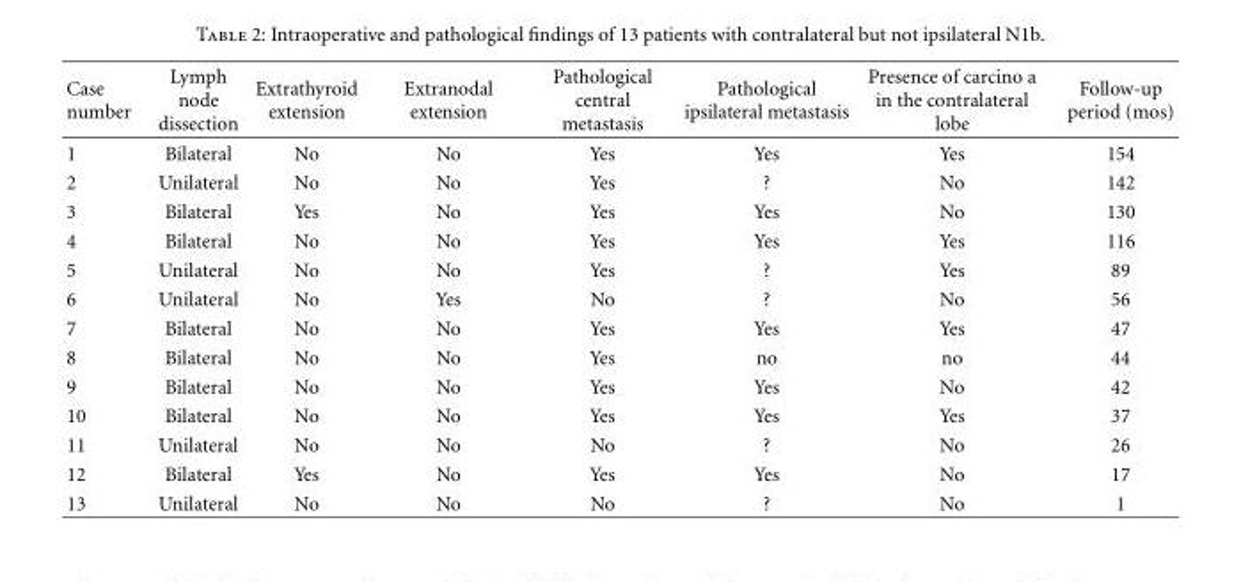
<table><thead><tr><td>Case number</td><td>Lymph node dissection</td><td>Extrathyroid extension</td><td>Extranodal extension</td><td>Pathological central metastasis</td><td>Pathological ipsilateral metastasis</td><td>Presence of carcino a in the contralateral lobe</td><td>Follow-up period (mos)</td></tr></thead><tbody><tr><td>1</td><td>Bilateral</td><td>No</td><td>No</td><td>Yes</td><td>Yes</td><td>Yes</td><td>154</td></tr><tr><td>2</td><td>Unilateral</td><td>No</td><td>No</td><td>Yes</td><td>?</td><td>No</td><td>142</td></tr><tr><td>3</td><td>Bilateral</td><td>Yes</td><td>No</td><td>Yes</td><td>Yes</td><td>No</td><td>130</td></tr><tr><td>4</td><td>Bilateral</td><td>No</td><td>No</td><td>Yes</td><td>Yes</td><td>Yes</td><td>116</td></tr><tr><td>5</td><td>Unilateral</td><td>No</td><td>No</td><td>Yes</td><td>?</td><td>Yes</td><td>89</td></tr><tr><td>6</td><td>Unilateral</td><td>No</td><td>Yes</td><td>No</td><td>?</td><td>No</td><td>56</td></tr><tr><td>7</td><td>Bilateral</td><td>No</td><td>No</td><td>Yes</td><td>Yes</td><td>Yes</td><td>47</td></tr><tr><td>8</td><td>Bilateral</td><td>No</td><td>No</td><td>Yes</td><td>no</td><td>no</td><td>44</td></tr><tr><td>9</td><td>Bilateral</td><td>No</td><td>No</td><td>Yes</td><td>Yes</td><td>No</td><td>42</td></tr><tr><td>10</td><td>Bilateral</td><td>No</td><td>No</td><td>Yes</td><td>Yes</td><td>Yes</td><td>37</td></tr><tr><td>11</td><td>Unilateral</td><td>No</td><td>No</td><td>No</td><td>?</td><td>No</td><td>26</td></tr><tr><td>12</td><td>Bilateral</td><td>Yes</td><td>No</td><td>Yes</td><td>Yes</td><td>No</td><td>17</td></tr><tr><td>13</td><td>Unilateral</td><td>No</td><td>No</td><td>No</td><td>?</td><td>No</td><td>1</td></tr></tbody></table>